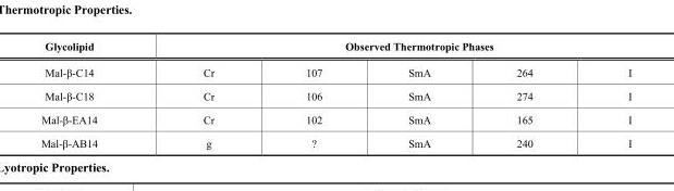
<table><thead><tr><td rowspan="2">Glycolipid Mal-β-C14</td><td colspan="5">Observed Thermotropic Phases</td></tr><tr><td>Cr</td><td>107</td><td>SmA</td><td>264</td><td>I</td></tr></thead><tbody><tr><td>Mal-β-C18</td><td>Cr</td><td>106</td><td>SmA</td><td>274</td><td>I</td></tr><tr><td>Mal-β-EA14</td><td>Cr</td><td>102</td><td>SmA</td><td>165</td><td>I</td></tr><tr><td>Mal-β-AB14</td><td>g</td><td>?</td><td>SmA</td><td>240</td><td>I</td></tr></tbody></table>